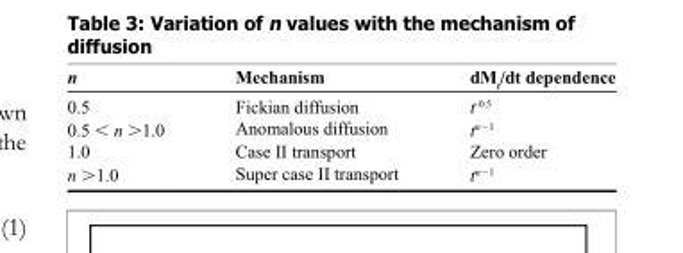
<table><thead><tr><td>n</td><td>Mechanism</td><td>dM<sub>t</sub>/dt dependence</td></tr></thead><tbody><tr><td>0.5</td><td>Fickian diffusion</td><td>t<sup>-0.5</sup></td></tr><tr><td>0.5 &lt; n &gt;1.0</td><td>Anomalous diffusion</td><td>t<sup>n–1</sup></td></tr><tr><td>1.0</td><td>Case II transport</td><td>Zero order</td></tr><tr><td>n &gt;1.0</td><td>Super case II transport</td><td>t<sup>n–1</sup></td></tr></tbody></table>